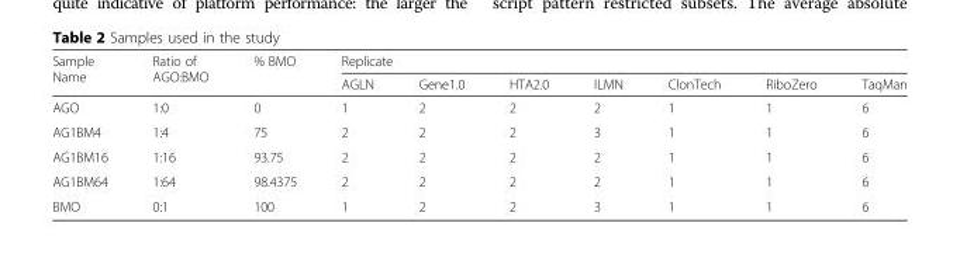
<table><thead><tr><td rowspan="2">Sample Name</td><td rowspan="2">Ratio of AGO:BMO</td><td rowspan="2">% BMO</td><td colspan="7">Replicate</td></tr><tr><td>AGLN</td><td>Gene1.0</td><td>HTA2.0</td><td>ILMN</td><td>ClonTech</td><td>RiboZero</td><td>TaqMan</td></tr></thead><tbody><tr><td>AGO</td><td>1:0</td><td>0</td><td>1</td><td>2</td><td>2</td><td>2</td><td>1</td><td>1</td><td>6</td></tr><tr><td>AG1BM4</td><td>1:4</td><td>75</td><td>2</td><td>2</td><td>2</td><td>3</td><td>1</td><td>1</td><td>6</td></tr><tr><td>AG1BM16</td><td>1:16</td><td>93.75</td><td>2</td><td>2</td><td>2</td><td>2</td><td>1</td><td>1</td><td>6</td></tr><tr><td>AG1BM64</td><td>1:64</td><td>98.4375</td><td>2</td><td>2</td><td>2</td><td>2</td><td>1</td><td>1</td><td>6</td></tr><tr><td>BMO</td><td>0:1</td><td>100</td><td>1</td><td>2</td><td>2</td><td>3</td><td>1</td><td>1</td><td>6</td></tr></tbody></table>